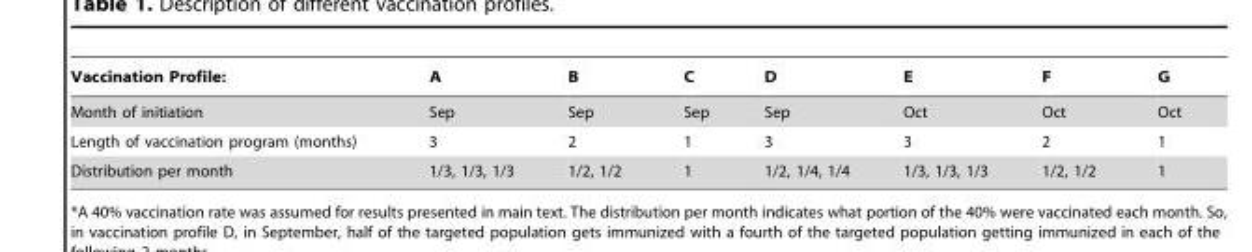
<table><thead><tr><td>Vaccination Profile:</td><td>A</td><td>B</td><td>C</td><td>D</td><td>E</td><td>F</td><td>G</td></tr></thead><tbody><tr><td>Month of initiation</td><td>Sep</td><td>Sep</td><td>Sep</td><td>Sep</td><td>Oct</td><td>Oct</td><td>Oct</td></tr><tr><td>Length of vaccination program (months)</td><td>3</td><td>2</td><td>1</td><td>3</td><td>3</td><td>2</td><td>1</td></tr><tr><td>Distribution per month</td><td>1/3, 1/3, 1/3</td><td>1/2, 1/2</td><td>1</td><td>1/2, 1/4, 1/4</td><td>1/3, 1/3, 1/3</td><td>1/2, 1/2</td><td>1</td></tr></tbody></table>